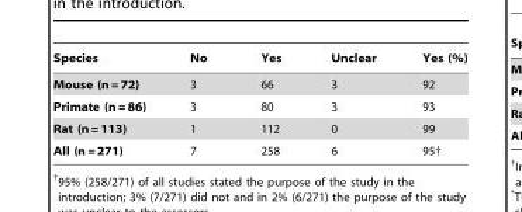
<table><thead><tr><td>Species</td><td>No</td><td>Yes</td><td>Unclear</td><td>Yes (%)</td></tr></thead><tbody><tr><td>Mouse (n = 72)</td><td>3</td><td>66</td><td>3</td><td>92</td></tr><tr><td>Primate (n = 86)</td><td>3</td><td>80</td><td>3</td><td>93</td></tr><tr><td>Rat (n = 113)</td><td>1</td><td>112</td><td>0</td><td>99</td></tr><tr><td>All (n = 271)</td><td>7</td><td>258</td><td>6</td><td>95†</td></tr></tbody></table>